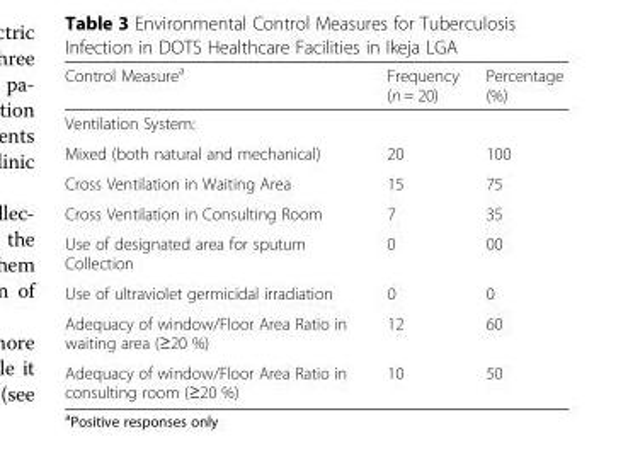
<table><thead><tr><td>Control Measure<sup>a</sup></td><td>Frequency (n = 20)</td><td>Percentage (%)</td></tr></thead><tbody><tr><td colspan="3">Ventilation System:</td></tr><tr><td>Mixed (both natural and mechanical)</td><td>20</td><td>100</td></tr><tr><td>Cross Ventilation in Waiting Area</td><td>15</td><td>75</td></tr><tr><td>Cross Ventilation in Consulting Room</td><td>7</td><td>35</td></tr><tr><td>Use of designated area for sputum Collection</td><td>0</td><td>00</td></tr><tr><td>Use of ultraviolet germicidal irradiation</td><td>0</td><td>0</td></tr><tr><td>Adequacy of window/Floor Area Ratio in waiting area (≥20 %)</td><td>12</td><td>60</td></tr><tr><td>Adequacy of window/Floor Area Ratio in consulting room (≥20 %)</td><td>10</td><td>50</td></tr></tbody></table>